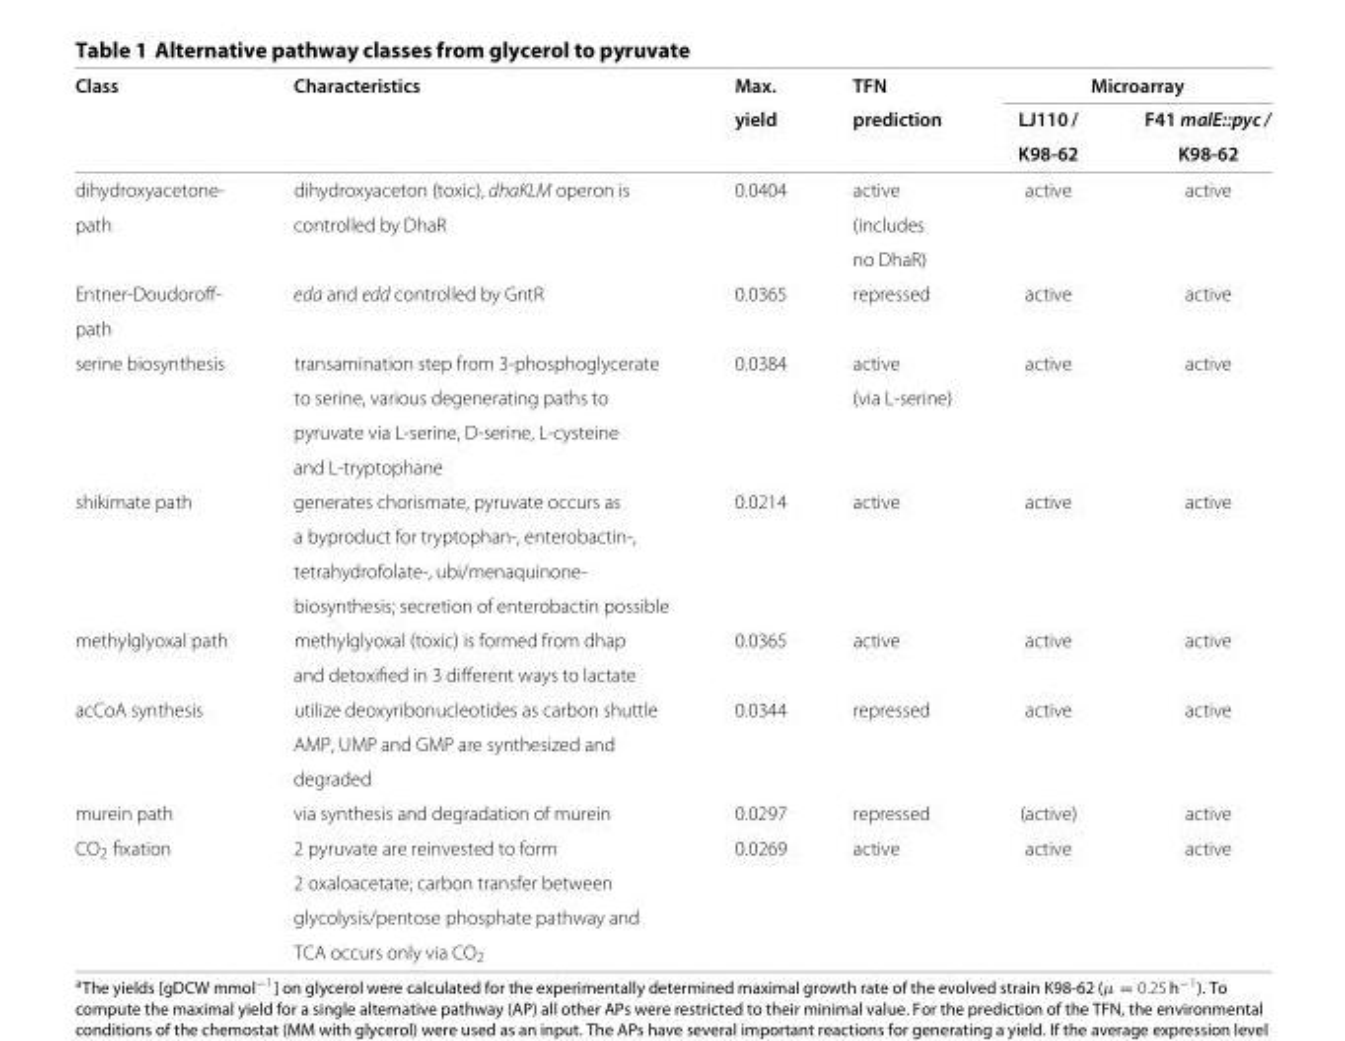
<table><thead><tr><td rowspan="2">Class</td><td rowspan="2">Characteristics</td><td rowspan="2">Max. yield</td><td rowspan="2">TFN prediction</td><td colspan="2">Microarray</td></tr><tr><td>LJ110 /</td><td>F41 malE::pyc /</td></tr></thead><tbody><tr><td></td><td></td><td></td><td></td><td>K98-62</td><td>K98-62</td></tr><tr><td>dihydroxyacetone-</td><td>dihydroxyaceton (toxic), dhaKLM operon is</td><td>0.0404</td><td>active</td><td>active</td><td>active</td></tr><tr><td rowspan="2">path</td><td>controlled by DhaR</td><td></td><td>(includes</td><td></td><td></td></tr><tr><td></td><td></td><td>no DhaR)</td><td></td><td></td></tr><tr><td>Entner-Doudoroff-</td><td>eda and edd controlled by GntR</td><td>0.0365</td><td>repressed</td><td>active</td><td>active</td></tr><tr><td colspan="6">path</td></tr><tr><td rowspan="4">serine biosynthesis</td><td>transamination step from 3-phosphoglycerate</td><td>0.0384</td><td>active</td><td>active</td><td>active</td></tr><tr><td>to serine, various degenerating paths to</td><td></td><td>(via L-serine)</td><td></td><td></td></tr><tr><td>pyruvate via L-serine, D-serine, L-cysteine</td><td></td><td></td><td></td><td></td></tr><tr><td>and L-tryptophane</td><td></td><td></td><td></td><td></td></tr><tr><td rowspan="4">shikimate path</td><td>generates chorismate, pyruvate occurs as</td><td>0.0214</td><td>active</td><td>active</td><td>active</td></tr><tr><td>a byproduct for tryptophan-, enterobactin-,</td><td></td><td></td><td></td><td></td></tr><tr><td>tetrahydrofolate-, ubi/menaquinone-</td><td></td><td></td><td></td><td></td></tr><tr><td>biosynthesis; secretion of enterobactin possible</td><td></td><td></td><td></td><td></td></tr><tr><td rowspan="2">methylglyoxal path</td><td>methylglyoxal (toxic) is formed from dhap</td><td>0.0365</td><td>active</td><td>active</td><td>active</td></tr><tr><td>and detoxified in 3 different ways to lactate</td><td></td><td></td><td></td><td></td></tr><tr><td rowspan="3">acCoA synthesis</td><td>utilize deoxyribonucleotides as carbon shuttle</td><td>0.0344</td><td>repressed</td><td>active</td><td>active</td></tr><tr><td>AMP, UMP and GMP are synthesized and</td><td></td><td></td><td></td><td></td></tr><tr><td>degraded</td><td></td><td></td><td></td><td></td></tr><tr><td>murein path</td><td>via synthesis and degradation of murein</td><td>0.0297</td><td>repressed</td><td>(active)</td><td>active</td></tr><tr><td rowspan="4">CO<sub>2</sub> fixation</td><td>2 pyruvate are reinvested to form</td><td>0.0269</td><td>active</td><td>active</td><td>active</td></tr><tr><td>2 oxaloacetate; carbon transfer between</td><td></td><td></td><td></td><td></td></tr><tr><td>glycolysis/pentose phosphate pathway and</td><td></td><td></td><td></td><td></td></tr><tr><td>TCA occurs only via CO<sub>2</sub></td><td></td><td></td><td></td><td></td></tr></tbody></table>